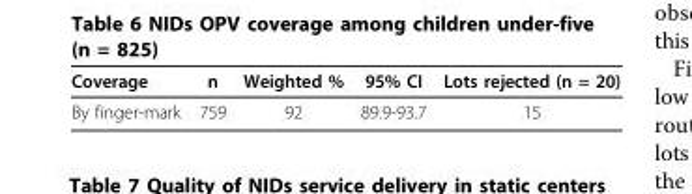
<table><thead><tr><td>Coverage</td><td>n</td><td>Weighted %</td><td>95% CI</td><td>Lots rejected (n = 20)</td></tr></thead><tbody><tr><td>By finger-mark</td><td>759</td><td>92</td><td>89.9-93.7</td><td>15</td></tr></tbody></table>